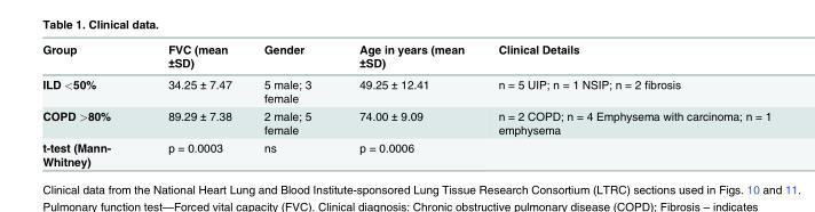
<table><thead><tr><td>Group</td><td>FVC (mean ±SD)</td><td>Gender</td><td>Age in years (mean ±SD)</td><td>Clinical Details</td></tr></thead><tbody><tr><td>ILD &lt;50%</td><td>34.25 ± 7.47</td><td>5 male; 3 female</td><td>49.25 ± 12.41</td><td>n = 5 UIP; n = 1 NSIP; n = 2 fibrosis</td></tr><tr><td>COPD &gt;80%</td><td>89.29 ± 7.38</td><td>2 male; 5 female</td><td>74.00 ± 9.09</td><td>n = 2 COPD; n = 4 Emphysema with carcinoma; n = 1 emphysema</td></tr><tr><td>t-test (Mann- Whitney)</td><td>p = 0.0003</td><td>ns</td><td>p = 0.0006</td><td></td></tr></tbody></table>